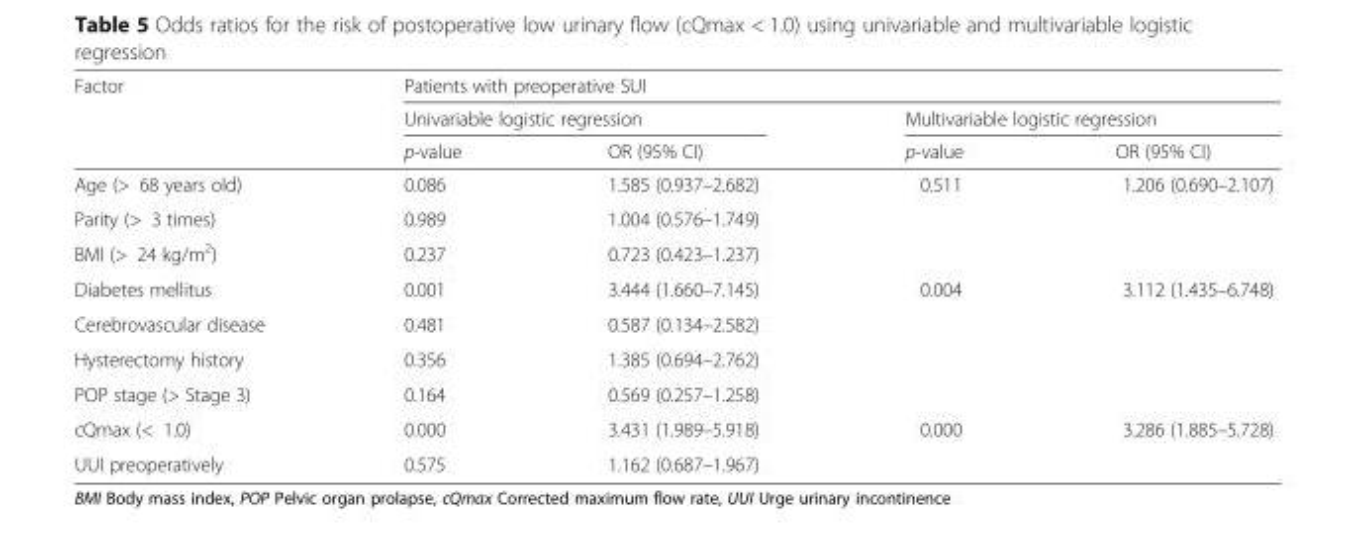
<table><thead><tr><td rowspan="3">Factor</td><td colspan="4">Patients with preoperative SUI</td></tr><tr><td colspan="2">Univariable logistic regression</td><td colspan="2">Multivariable logistic regression</td></tr><tr><td>p-value</td><td>OR (95% CI)</td><td>p-value</td><td>OR (95% CI)</td></tr></thead><tbody><tr><td>Age (&gt; 68 years old)</td><td>0.086</td><td>1.585 (0.937–2.682)</td><td>0.511</td><td>1.206 (0.690–2.107)</td></tr><tr><td>Parity (&gt; 3 times)</td><td>0.989</td><td>1.004 (0.576–1.749)</td><td></td><td></td></tr><tr><td>BMI (&gt; 24 kg/m<sup>2</sup>)</td><td>0.237</td><td>0.723 (0.423–1.237)</td><td></td><td></td></tr><tr><td>Diabetes mellitus</td><td>0.001</td><td>3.444 (1.660–7.145)</td><td>0.004</td><td>3.112 (1.435–6.748)</td></tr><tr><td>Cerebrovascular disease</td><td>0.481</td><td>0.587 (0.134–2.582)</td><td></td><td></td></tr><tr><td>Hysterectomy history</td><td>0.356</td><td>1.385 (0.694–2.762)</td><td></td><td></td></tr><tr><td>POP stage (&gt; Stage 3)</td><td>0.164</td><td>0.569 (0.257–1.258)</td><td></td><td></td></tr><tr><td>cQmax (&lt; 1.0)</td><td>0.000</td><td>3.431 (1.989–5.918)</td><td>0.000</td><td>3.286 (1.885–5.728)</td></tr><tr><td>UUI preoperatively</td><td>0.575</td><td>1.162 (0.687–1.967)</td><td></td><td></td></tr></tbody></table>